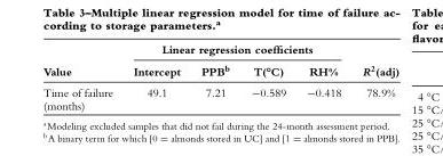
<table><thead><tr><td rowspan="2">Value</td><td colspan="4">Linear regression coefficients</td><td rowspan="2">R<sup>2</sup>(adj)</td></tr><tr><td>Intercept</td><td>PPB<sup>b</sup></td><td>T(°C)</td><td>RH%</td></tr></thead><tbody><tr><td>Time of failure (months)</td><td>49.1</td><td>7.21</td><td>−0.589</td><td>−0.418</td><td>78.9%</td></tr></tbody></table>